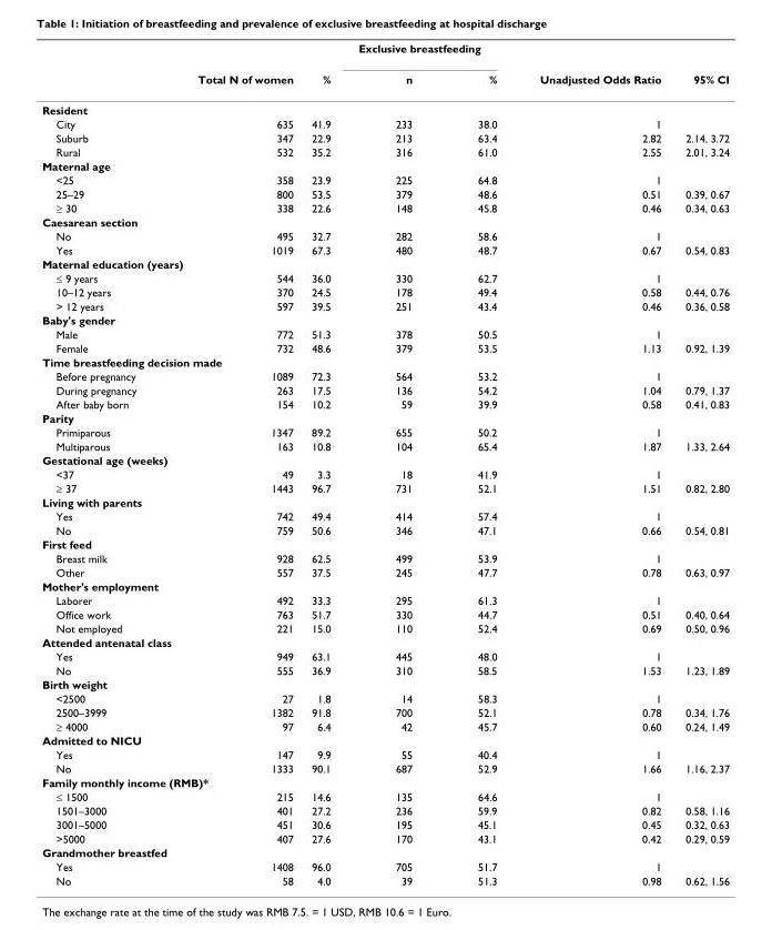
<table><thead><tr><td rowspan="2"></td><td rowspan="2">Total N of women</td><td rowspan="2">%</td><td colspan="2">Exclusive breastfeeding</td><td rowspan="2">Unadjusted Odds Ratio</td><td rowspan="2">95% CI</td></tr><tr><td>n</td><td>%</td></tr></thead><tbody><tr><td colspan="7">Resident</td></tr><tr><td>City</td><td>635</td><td>41.9</td><td>233</td><td>38.0</td><td>1</td><td></td></tr><tr><td>Suburb</td><td>347</td><td>22.9</td><td>213</td><td>63.4</td><td>2.82</td><td>2.14, 3.72</td></tr><tr><td>Rural</td><td>532</td><td>35.2</td><td>316</td><td>61.0</td><td>2.55</td><td>2.01, 3.24</td></tr><tr><td colspan="7">Maternal age</td></tr><tr><td>&lt;25</td><td>358</td><td>23.9</td><td>225</td><td>64.8</td><td>1</td><td></td></tr><tr><td>25–29</td><td>800</td><td>53.5</td><td>379</td><td>48.6</td><td>0.51</td><td>0.39, 0.67</td></tr><tr><td>≥ 30</td><td>338</td><td>22.6</td><td>148</td><td>45.8</td><td>0.46</td><td>0.34, 0.63</td></tr><tr><td colspan="7">Caesarean section</td></tr><tr><td>No</td><td>495</td><td>32.7</td><td>282</td><td>58.6</td><td>1</td><td></td></tr><tr><td>Yes</td><td>1019</td><td>67.3</td><td>480</td><td>48.7</td><td>0.67</td><td>0.54, 0.83</td></tr><tr><td colspan="7">Maternal education (years)</td></tr><tr><td>≤ 9 years</td><td>544</td><td>36.0</td><td>330</td><td>62.7</td><td>1</td><td></td></tr><tr><td>10–12 years</td><td>370</td><td>24.5</td><td>178</td><td>49.4</td><td>0.58</td><td>0.44, 0.76</td></tr><tr><td>&gt; 12 years</td><td>597</td><td>39.5</td><td>251</td><td>43.4</td><td>0.46</td><td>0.36, 0.58</td></tr><tr><td colspan="7">Baby&#x27;s gender</td></tr><tr><td>Male</td><td>772</td><td>51.3</td><td>378</td><td>50.5</td><td>1</td><td></td></tr><tr><td>Female</td><td>732</td><td>48.6</td><td>379</td><td>53.5</td><td>1.13</td><td>0.92, 1.39</td></tr><tr><td colspan="7">Time breastfeeding decision made</td></tr><tr><td>Before pregnancy</td><td>1089</td><td>72.3</td><td>564</td><td>53.2</td><td>1</td><td></td></tr><tr><td>During pregnancy</td><td>263</td><td>17.5</td><td>136</td><td>54.2</td><td>1.04</td><td>0.79, 1.37</td></tr><tr><td>After baby born</td><td>154</td><td>10.2</td><td>59</td><td>39.9</td><td>0.58</td><td>0.41, 0.83</td></tr><tr><td colspan="7">Parity</td></tr><tr><td>Primiparous</td><td>1347</td><td>89.2</td><td>655</td><td>50.2</td><td>1</td><td></td></tr><tr><td>Multiparous</td><td>163</td><td>10.8</td><td>104</td><td>65.4</td><td>1.87</td><td>1.33, 2.64</td></tr><tr><td colspan="7">Gestational age (weeks)</td></tr><tr><td>&lt;37</td><td>49</td><td>3.3</td><td>18</td><td>41.9</td><td>1</td><td></td></tr><tr><td>≥ 37</td><td>1443</td><td>96.7</td><td>731</td><td>52.1</td><td>1.51</td><td>0.82, 2.80</td></tr><tr><td colspan="7">Living with parents</td></tr><tr><td>Yes</td><td>742</td><td>49.4</td><td>414</td><td>57.4</td><td>1</td><td></td></tr><tr><td>No</td><td>759</td><td>50.6</td><td>346</td><td>47.1</td><td>0.66</td><td>0.54, 0.81</td></tr><tr><td colspan="7">First feed</td></tr><tr><td>Breast milk</td><td>928</td><td>62.5</td><td>499</td><td>53.9</td><td>1</td><td></td></tr><tr><td>Other</td><td>557</td><td>37.5</td><td>245</td><td>47.7</td><td>0.78</td><td>0.63, 0.97</td></tr><tr><td colspan="7">Mother&#x27;s employment</td></tr><tr><td>Laborer</td><td>492</td><td>33.3</td><td>295</td><td>61.3</td><td>1</td><td></td></tr><tr><td>Office work</td><td>763</td><td>51.7</td><td>330</td><td>44.7</td><td>0.51</td><td>0.40, 0.64</td></tr><tr><td>Not employed</td><td>221</td><td>15.0</td><td>110</td><td>52.4</td><td>0.69</td><td>0.50, 0.96</td></tr><tr><td colspan="7">Attended antenatal class</td></tr><tr><td>Yes</td><td>949</td><td>63.1</td><td>445</td><td>48.0</td><td>1</td><td></td></tr><tr><td>No</td><td>555</td><td>36.9</td><td>310</td><td>58.5</td><td>1.53</td><td>1.23, 1.89</td></tr><tr><td colspan="7">Birth weight</td></tr><tr><td>&lt;2500</td><td>27</td><td>1.8</td><td>14</td><td>58.3</td><td>1</td><td></td></tr><tr><td>2500–3999</td><td>1382</td><td>91.8</td><td>700</td><td>52.1</td><td>0.78</td><td>0.34, 1.76</td></tr><tr><td>≥ 4000</td><td>97</td><td>6.4</td><td>42</td><td>45.7</td><td>0.60</td><td>0.24, 1.49</td></tr><tr><td colspan="7">Admitted to NICU</td></tr><tr><td>Yes</td><td>147</td><td>9.9</td><td>55</td><td>40.4</td><td>1</td><td></td></tr><tr><td>No</td><td>1333</td><td>90.1</td><td>687</td><td>52.9</td><td>1.66</td><td>1.16, 2.37</td></tr><tr><td colspan="7">Family monthly income (RMB)*</td></tr><tr><td>≤ 1500</td><td>215</td><td>14.6</td><td>135</td><td>64.6</td><td>1</td><td></td></tr><tr><td>1501–3000</td><td>401</td><td>27.2</td><td>236</td><td>59.9</td><td>0.82</td><td>0.58, 1.16</td></tr><tr><td>3001–5000</td><td>451</td><td>30.6</td><td>195</td><td>45.1</td><td>0.45</td><td>0.32, 0.63</td></tr><tr><td>&gt;5000</td><td>407</td><td>27.6</td><td>170</td><td>43.1</td><td>0.42</td><td>0.29, 0.59</td></tr><tr><td colspan="7">Grandmother breastfed</td></tr><tr><td>Yes</td><td>1408</td><td>96.0</td><td>705</td><td>51.7</td><td>1</td><td></td></tr><tr><td>No</td><td>58</td><td>4.0</td><td>39</td><td>51.3</td><td>0.98</td><td>0.62, 1.56</td></tr></tbody></table>